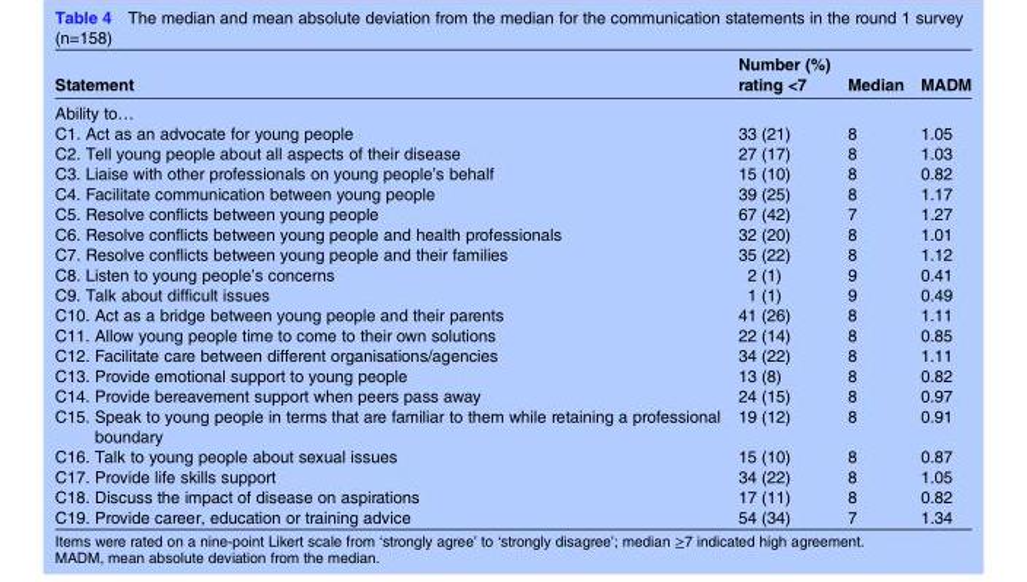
<table><thead><tr><td>Statement</td><td>Number (%) rating &lt;7</td><td>Median</td><td>MADM</td></tr></thead><tbody><tr><td colspan="4">Ability to…</td></tr><tr><td>C1. Act as an advocate for young people</td><td>33 (21)</td><td>8</td><td>1.05</td></tr><tr><td>C2. Tell young people about all aspects of their disease</td><td>27 (17)</td><td>8</td><td>1.03</td></tr><tr><td>C3. Liaise with other professionals on young people’s behalf</td><td>15 (10)</td><td>8</td><td>0.82</td></tr><tr><td>C4. Facilitate communication between young people</td><td>39 (25)</td><td>8</td><td>1.17</td></tr><tr><td>C5. Resolve conflicts between young people</td><td>67 (42)</td><td>7</td><td>1.27</td></tr><tr><td>C6. Resolve conflicts between young people and health professionals</td><td>32 (20)</td><td>8</td><td>1.01</td></tr><tr><td>C7. Resolve conflicts between young people and their families</td><td>35 (22)</td><td>8</td><td>1.12</td></tr><tr><td>C8. Listen to young people’s concerns</td><td>2 (1)</td><td>9</td><td>0.41</td></tr><tr><td>C9. Talk about difficult issues</td><td>1 (1)</td><td>9</td><td>0.49</td></tr><tr><td>C10. Act as a bridge between young people and their parents</td><td>41 (26)</td><td>8</td><td>1.11</td></tr><tr><td>C11. Allow young people time to come to their own solutions</td><td>22 (14)</td><td>8</td><td>0.85</td></tr><tr><td>C12. Facilitate care between different organisations/agencies</td><td>34 (22)</td><td>8</td><td>1.11</td></tr><tr><td>C13. Provide emotional support to young people</td><td>13 (8)</td><td>8</td><td>0.82</td></tr><tr><td>C14. Provide bereavement support when peers pass away</td><td>24 (15)</td><td>8</td><td>0.97</td></tr><tr><td>C15. Speak to young people in terms that are familiar to them while retaining a professional boundary</td><td>19 (12)</td><td>8</td><td>0.91</td></tr><tr><td>C16. Talk to young people about sexual issues</td><td>15 (10)</td><td>8</td><td>0.87</td></tr><tr><td>C17. Provide life skills support</td><td>34 (22)</td><td>8</td><td>1.05</td></tr><tr><td>C18. Discuss the impact of disease on aspirations</td><td>17 (11)</td><td>8</td><td>0.82</td></tr><tr><td>C19. Provide career, education or training advice</td><td>54 (34)</td><td>7</td><td>1.34</td></tr></tbody></table>